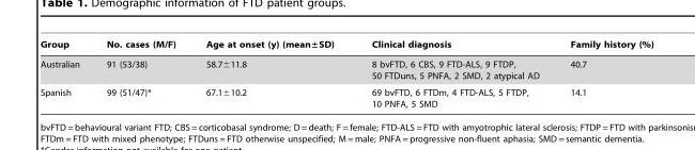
<table><thead><tr><td>Group</td><td>No. cases (M/F)</td><td>Age at onset (y) (mean±SD)</td><td>Clinical diagnosis</td><td>Family history (%)</td></tr></thead><tbody><tr><td>Australian</td><td>91 (53/38)</td><td>58.7±11.8</td><td>8 bvFTD, 6 CBS, 9 FTD-ALS, 9 FTDP, 50 FTDuns, 5 PNFA, 2 SMD, 2 atypical AD</td><td>40.7</td></tr><tr><td>Spanish</td><td>99 (51/47)*</td><td>67.1±10.2</td><td>69 bvFTD, 6 FTDm, 4 FTD-ALS, 5 FTDP, 10 PNFA, 5 SMD</td><td>14.1</td></tr></tbody></table>